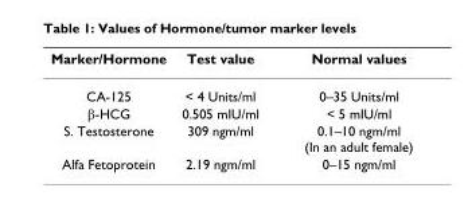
<table><thead><tr><td>Marker/Hormone</td><td>Test value</td><td>Normal values</td></tr></thead><tbody><tr><td>CA-125</td><td>&lt; 4 Units/ml</td><td>0–35 Units/ml</td></tr><tr><td>β-HCG</td><td>0.505 mIU/ml</td><td>&lt; 5 mIU/ml</td></tr><tr><td>S. Testosterone</td><td>309 ngm/ml</td><td>0.1–10 ngm/ml (In an adult female)</td></tr><tr><td>Alfa Fetoprotein</td><td>2.19 ngm/ml</td><td>0–15 ngm/ml</td></tr></tbody></table>